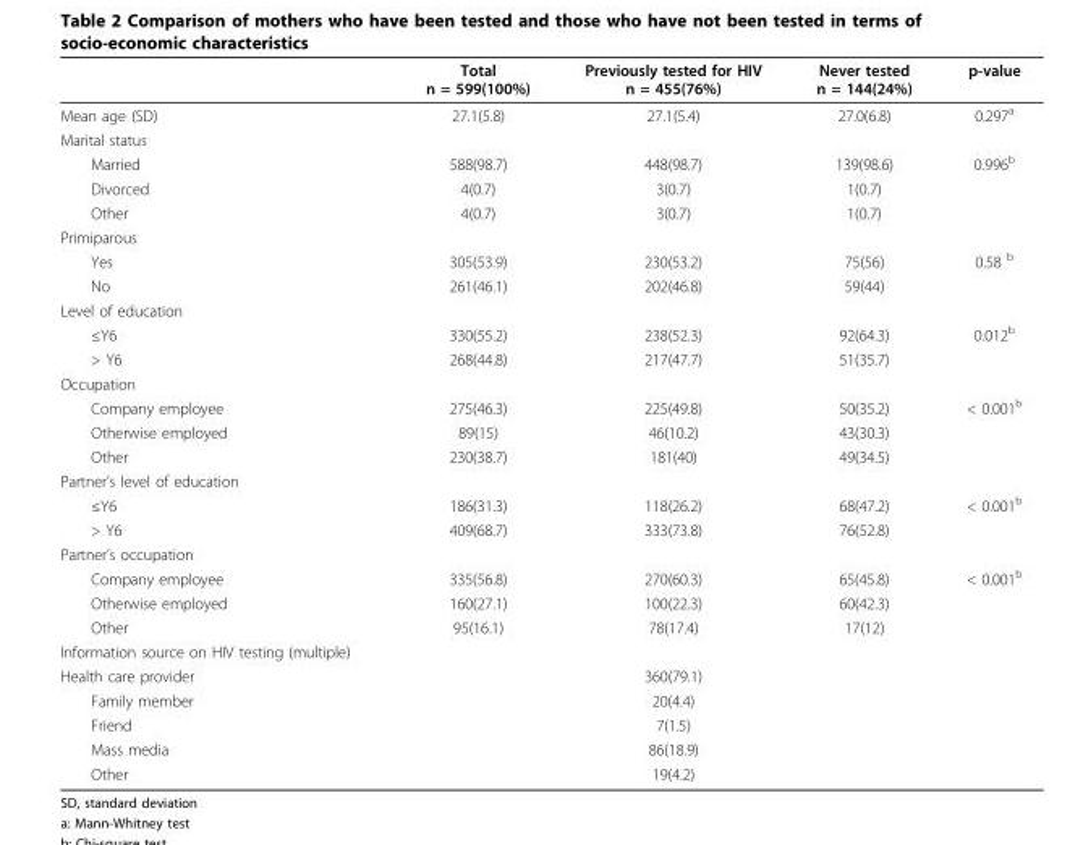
<table><thead><tr><td></td><td>Total n = 599(100%)</td><td>Previously tested for HIV n = 455(76%)</td><td>Never tested n = 144(24%)</td><td>p-value</td></tr></thead><tbody><tr><td>Mean age (SD)</td><td>27.1(5.8)</td><td>27.1(5.4)</td><td>27.0(6.8)</td><td>0.297<sup>a</sup></td></tr><tr><td colspan="5">Marital status</td></tr><tr><td>Married</td><td>588(98.7)</td><td>448(98.7)</td><td>139(98.6)</td><td>0.996<sup>b</sup></td></tr><tr><td>Divorced</td><td>4(0.7)</td><td>3(0.7)</td><td>1(0.7)</td><td></td></tr><tr><td>Other</td><td>4(0.7)</td><td>3(0.7)</td><td>1(0.7)</td><td></td></tr><tr><td colspan="5">Primiparous</td></tr><tr><td>Yes</td><td>305(53.9)</td><td>230(53.2)</td><td>75(56)</td><td>0.58 <sup>b</sup></td></tr><tr><td>No</td><td>261(46.1)</td><td>202(46.8)</td><td>59(44)</td><td></td></tr><tr><td colspan="5">Level of education</td></tr><tr><td>≤Y6</td><td>330(55.2)</td><td>238(52.3)</td><td>92(64.3)</td><td>0.012<sup>b</sup></td></tr><tr><td>&gt; Y6</td><td>268(44.8)</td><td>217(47.7)</td><td>51(35.7)</td><td></td></tr><tr><td colspan="5">Occupation</td></tr><tr><td>Company employee</td><td>275(46.3)</td><td>225(49.8)</td><td>50(35.2)</td><td>&lt; 0.001<sup>b</sup></td></tr><tr><td>Otherwise employed</td><td>89(15)</td><td>46(10.2)</td><td>43(30.3)</td><td></td></tr><tr><td>Other</td><td>230(38.7)</td><td>181(40)</td><td>49(34.5)</td><td></td></tr><tr><td colspan="5">Partner’s level of education</td></tr><tr><td>≤Y6</td><td>186(31.3)</td><td>118(26.2)</td><td>68(47.2)</td><td>&lt; 0.001<sup>b</sup></td></tr><tr><td>&gt; Y6</td><td>409(68.7)</td><td>333(73.8)</td><td>76(52.8)</td><td></td></tr><tr><td colspan="5">Partner’s occupation</td></tr><tr><td>Company employee</td><td>335(56.8)</td><td>270(60.3)</td><td>65(45.8)</td><td>&lt; 0.001<sup>b</sup></td></tr><tr><td>Otherwise employed</td><td>160(27.1)</td><td>100(22.3)</td><td>60(42.3)</td><td></td></tr><tr><td>Other</td><td>95(16.1)</td><td>78(17.4)</td><td>17(12)</td><td></td></tr><tr><td colspan="5">Information source on HIV testing (multiple)</td></tr><tr><td>Health care provider</td><td></td><td>360(79.1)</td><td></td><td></td></tr><tr><td>Family member</td><td></td><td>20(4.4)</td><td></td><td></td></tr><tr><td>Friend</td><td></td><td>7(1.5)</td><td></td><td></td></tr><tr><td>Mass media</td><td></td><td>86(18.9)</td><td></td><td></td></tr><tr><td>Other</td><td></td><td>19(4.2)</td><td></td><td></td></tr></tbody></table>